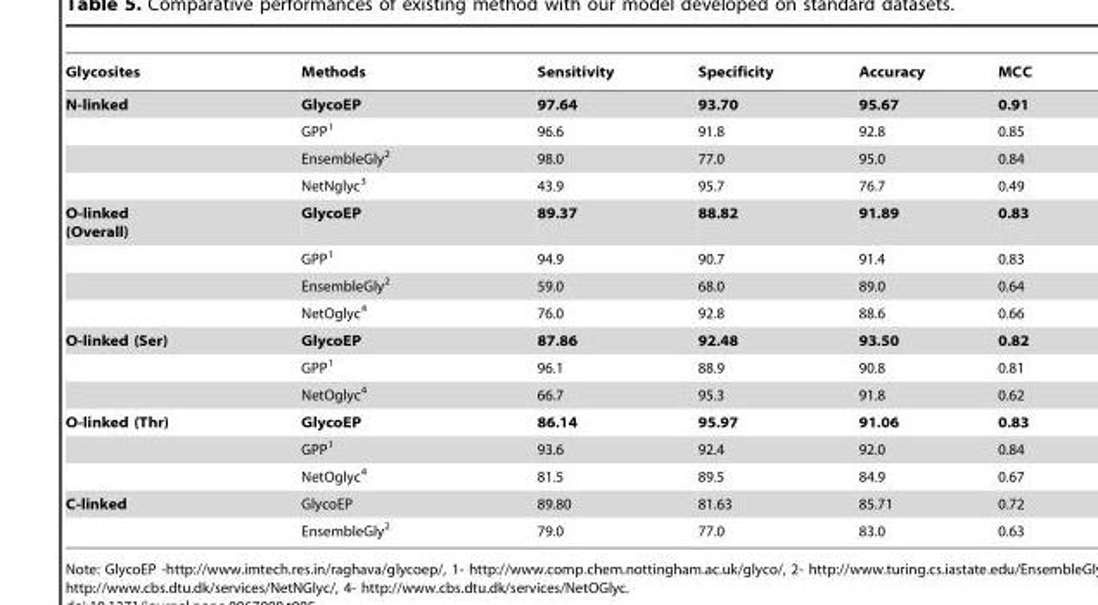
<table><thead><tr><td>Glycosites</td><td>Methods</td><td>Sensitivity</td><td>Specificity</td><td>Accuracy</td><td>MCC</td></tr></thead><tbody><tr><td rowspan="4">N-linked</td><td>GlycoEP</td><td>97.64</td><td>93.70</td><td>95.67</td><td>0.91</td></tr><tr><td>GPP<sup>1</sup></td><td>96.6</td><td>91.8</td><td>92.8</td><td>0.85</td></tr><tr><td>EnsembleGly<sup>2</sup></td><td>98.0</td><td>77.0</td><td>95.0</td><td>0.84</td></tr><tr><td>NetNglyc<sup>3</sup></td><td>43.9</td><td>95.7</td><td>76.7</td><td>0.49</td></tr><tr><td rowspan="4">O-linked (Overall)</td><td>GlycoEP</td><td>89.37</td><td>88.82</td><td>91.89</td><td>0.83</td></tr><tr><td>GPP<sup>1</sup></td><td>94.9</td><td>90.7</td><td>91.4</td><td>0.83</td></tr><tr><td>EnsembleGly<sup>2</sup></td><td>59.0</td><td>68.0</td><td>89.0</td><td>0.64</td></tr><tr><td>NetOglyc<sup>4</sup></td><td>76.0</td><td>92.8</td><td>88.6</td><td>0.66</td></tr><tr><td rowspan="3">O-linked (Ser)</td><td>GlycoEP</td><td>87.86</td><td>92.48</td><td>93.50</td><td>0.82</td></tr><tr><td>GPP<sup>1</sup></td><td>96.1</td><td>88.9</td><td>90.8</td><td>0.81</td></tr><tr><td>NetOglyc<sup>4</sup></td><td>66.7</td><td>95.3</td><td>91.8</td><td>0.62</td></tr><tr><td rowspan="3">O-linked (Thr)</td><td>GlycoEP</td><td>86.14</td><td>95.97</td><td>91.06</td><td>0.83</td></tr><tr><td>GPP<sup>1</sup></td><td>93.6</td><td>92.4</td><td>92.0</td><td>0.84</td></tr><tr><td>NetOglyc<sup>4</sup></td><td>81.5</td><td>89.5</td><td>84.9</td><td>0.67</td></tr><tr><td rowspan="2">C-linked</td><td>GlycoEP</td><td>89.80</td><td>81.63</td><td>85.71</td><td>0.72</td></tr><tr><td>EnsembleGly<sup>2</sup></td><td>79.0</td><td>77.0</td><td>83.0</td><td>0.63</td></tr></tbody></table>